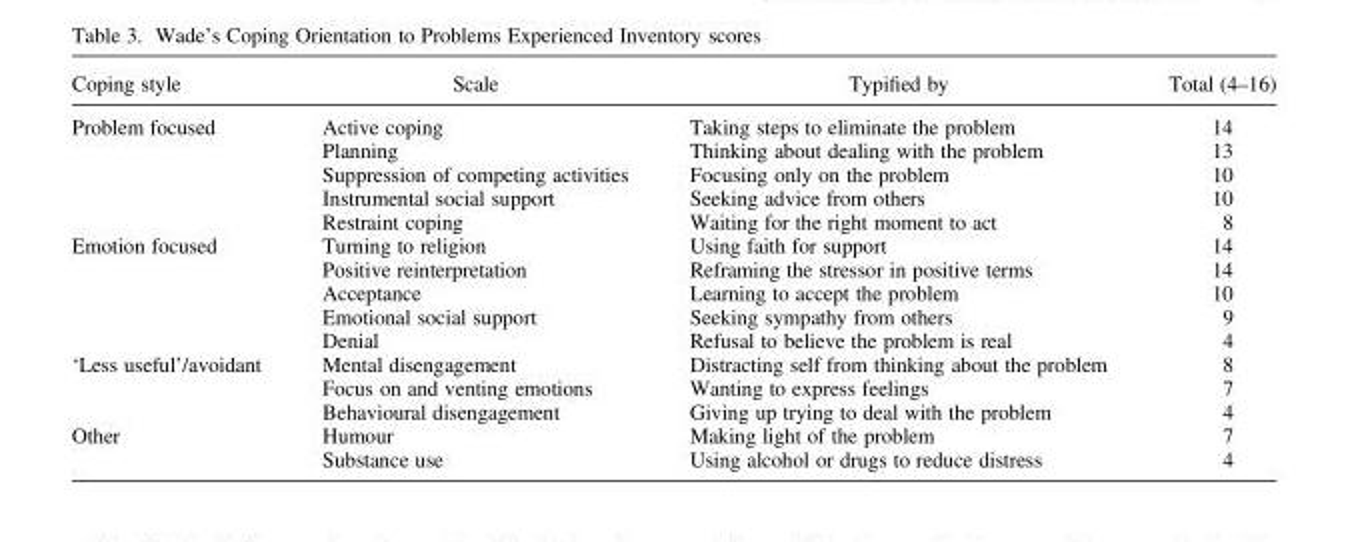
<table><thead><tr><td>Coping style</td><td>Scale</td><td>Typified by</td><td>Total (4–16)</td></tr></thead><tbody><tr><td rowspan="5">Problem focused</td><td>Active coping</td><td>Taking steps to eliminate the problem</td><td>14</td></tr><tr><td>Planning</td><td>Thinking about dealing with the problem</td><td>13</td></tr><tr><td>Suppression of competing activities</td><td>Focusing only on the problem</td><td>10</td></tr><tr><td>Instrumental social support</td><td>Seeking advice from others</td><td>10</td></tr><tr><td>Restraint coping</td><td>Waiting for the right moment to act</td><td>8</td></tr><tr><td rowspan="5">Emotion focused</td><td>Turning to religion</td><td>Using faith for support</td><td>14</td></tr><tr><td>Positive reinterpretation</td><td>Reframing the stressor in positive terms</td><td>14</td></tr><tr><td>Acceptance</td><td>Learning to accept the problem</td><td>10</td></tr><tr><td>Emotional social support</td><td>Seeking sympathy from others</td><td>9</td></tr><tr><td>Denial</td><td>Refusal to believe the problem is real</td><td>4</td></tr><tr><td rowspan="3">‘Less useful’/avoidant</td><td>Mental disengagement</td><td>Distracting self from thinking about the problem</td><td>8</td></tr><tr><td>Focus on and venting emotions</td><td>Wanting to express feelings</td><td>7</td></tr><tr><td>Behavioural disengagement</td><td>Giving up trying to deal with the problem</td><td>4</td></tr><tr><td rowspan="2">Other</td><td>Humour</td><td>Making light of the problem</td><td>7</td></tr><tr><td>Substance use</td><td>Using alcohol or drugs to reduce distress</td><td>4</td></tr></tbody></table>